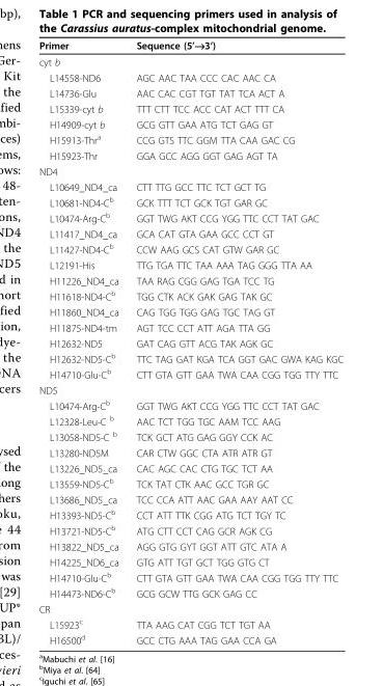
<table><thead><tr><td>Primer</td><td>Sequence (5’→3’)</td></tr></thead><tbody><tr><td colspan="2">cyt b</td></tr><tr><td>L14558-ND6</td><td>AGC AAC TAA CCC CAC AAC CA</td></tr><tr><td>L14736-Glu</td><td>AAC CAC CGT TGT TAT TCA ACT A</td></tr><tr><td>L15339-cyt b</td><td>TTT CTT TCC ACC CAT ACT TTT CA</td></tr><tr><td>H14909-cyt b</td><td>GCG GTT GAA ATG TCT GAG GT</td></tr><tr><td>H15913-Thr<sup>a</sup></td><td>CCG GTS TTC GGM TTA CAA GAC CG</td></tr><tr><td>H15923-Thr</td><td>GGA GCC AGG GGT GAG AGT TA</td></tr><tr><td colspan="2">ND4</td></tr><tr><td>L10649_ND4_ca</td><td>CTT TTG GCC TTC TCT GCT TG</td></tr><tr><td>L10681-ND4-C<sup>b</sup></td><td>GCK TTT TCT GCK TGT GAR GC</td></tr><tr><td>L10474-Arg-C<sup>b</sup></td><td>GGT TWG AKT CCG YGG TTC CCT TAT GAC</td></tr><tr><td>L11417_ND4_ca</td><td>GCA CAT GTA GAA GCC CCT GT</td></tr><tr><td>L11427-ND4-C<sup>b</sup></td><td>CCW AAG GCS CAT GTW GAR GC</td></tr><tr><td>L12191-His</td><td>TTG TGA TTC TAA AAA TAG GGG TTA AA</td></tr><tr><td>H11226_ND4_ca</td><td>TAA RAG CGG GAG TGA TCC TG</td></tr><tr><td>H11618-ND4-C<sup>b</sup></td><td>TGG CTK ACK GAK GAG TAK GC</td></tr><tr><td>H11860_ND4_ca</td><td>CAG TGG TGG GAG TGC TAG GT</td></tr><tr><td>H11875-ND4-tm</td><td>AGT TCC CCT ATT AGA TTA GG</td></tr><tr><td>H12632-ND5</td><td>GAT CAG GTT ACG TAK AGK GC</td></tr><tr><td>H12632-ND5-C<sup>b</sup></td><td>TTC TAG GAT KGA TCA GGT GAC GWA KAG KGC</td></tr><tr><td>H14710-Glu-C<sup>b</sup></td><td>CTT GTA GTT GAA TWA CAA CGG TGG TTY TTC</td></tr><tr><td colspan="2">ND5</td></tr><tr><td>L10474-Arg-C<sup>b</sup></td><td>GGT TWG AKT CCG YGG TTC CCT TAT GAC</td></tr><tr><td>L12328-Leu-C <sup>b</sup></td><td>AAC TCT TGG TGC AAM TCC AAG</td></tr><tr><td>L13058-ND5-C <sup>b</sup></td><td>TCK GCT ATG GAG GGY CCK AC</td></tr><tr><td>L13280-ND5M</td><td>CAR CTW GGC CTA ATR ATR GT</td></tr><tr><td>L13226_ND5_ca</td><td>CAC AGC CAC CTG TGC TCT AA</td></tr><tr><td>L13559-ND5-C<sup>b</sup></td><td>TCK TAT CTK AAC GCC TGR GC</td></tr><tr><td>L13686_ND5_ca</td><td>TCC CCA ATT AAC GAA AAY AAT CC</td></tr><tr><td>H13393-ND5-C<sup>b</sup></td><td>CCT ATT TTK CGG ATG TCT TGY TC</td></tr><tr><td>H13721-ND5-C<sup>b</sup></td><td>ATG CTT CCT CAG GCR AGK CG</td></tr><tr><td>H13822_ND5_ca</td><td>AGG GTG GYT GGT ATT GTC ATA A</td></tr><tr><td>H14225_ND6_ca</td><td>GTG ATT TGT GCT TGG GTG CT</td></tr><tr><td>H14710-Glu-C<sup>b</sup></td><td>CTT GTA GTT GAA TWA CAA CGG TGG TTY TTC</td></tr><tr><td>H14473-ND6-C<sup>b</sup></td><td>GCG GCW TTG GCK GAG CC</td></tr><tr><td colspan="2">CR</td></tr><tr><td>L15923<sup>c</sup></td><td>TTA AAG CAT CGG TCT TGT AA</td></tr><tr><td>H16500<sup>d</sup></td><td>GCC CTG AAA TAG GAA CCA GA</td></tr></tbody></table>